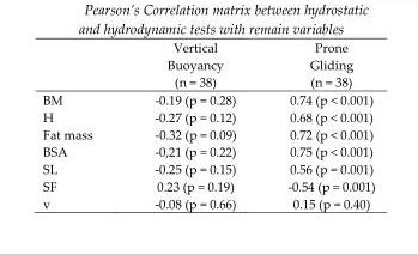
<table><thead><tr><td></td><td>Vertical Buoyancy (n = 38)</td><td>Prone Gliding (n = 38)</td></tr></thead><tbody><tr><td>BM</td><td>-0.19 (p = 0.28)</td><td>0.74 (p &lt; 0.001)</td></tr><tr><td>H</td><td>-0.27 (p = 0.12)</td><td>0.68 (p &lt; 0.001)</td></tr><tr><td>Fat mass</td><td>-0.32 (p = 0.09)</td><td>0.72 (p &lt; 0.001)</td></tr><tr><td>BSA</td><td>-0,21 (p = 0.22)</td><td>0.75 (p &lt; 0.001)</td></tr><tr><td>SL</td><td>-0.25 (p = 0.15)</td><td>0.56 (p = 0.001)</td></tr><tr><td>SF</td><td>0.23 (p = 0.19)</td><td>-0.54 (p = 0.001)</td></tr><tr><td>v</td><td>-0.08 (p = 0.66)</td><td>0.15 (p = 0.40)</td></tr></tbody></table>